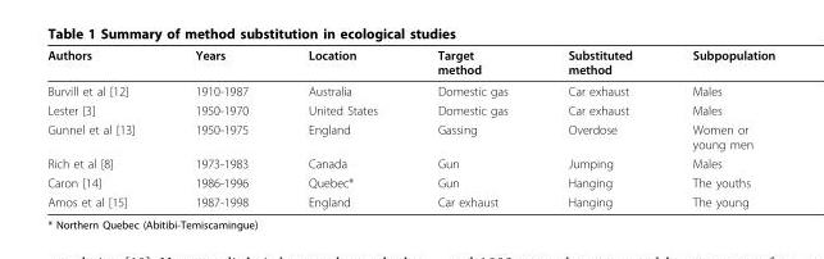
<table><thead><tr><td>Authors</td><td>Years</td><td>Location</td><td>Target method</td><td>Substituted method</td><td>Subpopulation</td></tr></thead><tbody><tr><td>Burvill et al [12]</td><td>1910-1987</td><td>Australia</td><td>Domestic gas</td><td>Car exhaust</td><td>Males</td></tr><tr><td>Lester [3]</td><td>1950-1970</td><td>United States</td><td>Domestic gas</td><td>Car exhaust</td><td>Males</td></tr><tr><td>Gunnel et al [13]</td><td>1950-1975</td><td>England</td><td>Gassing</td><td>Overdose</td><td>Women or young men</td></tr><tr><td>Rich et al [8]</td><td>1973-1983</td><td>Canada</td><td>Gun</td><td>Jumping</td><td>Males</td></tr><tr><td>Caron [14]</td><td>1986-1996</td><td>Quebec*</td><td>Gun</td><td>Hanging</td><td>The youths</td></tr><tr><td>Amos et al [15]</td><td>1987-1998</td><td>England</td><td>Car exhaust</td><td>Hanging</td><td>The young</td></tr></tbody></table>